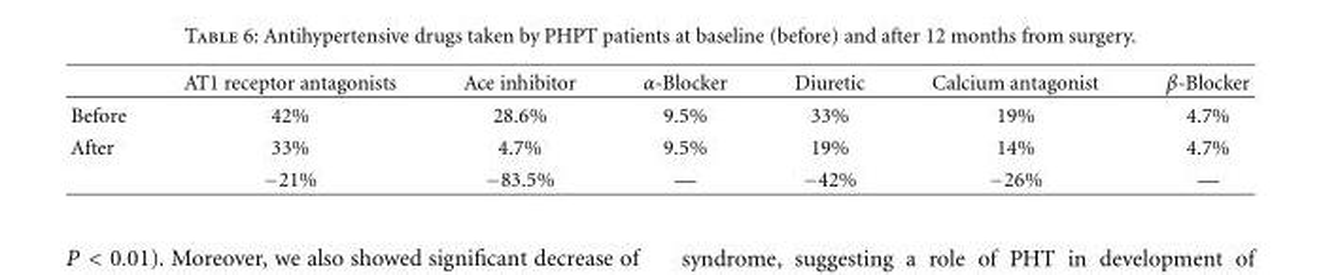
<table><thead><tr><td></td><td>AT1 receptor antagonists</td><td>Ace inhibitor</td><td>α-Blocker</td><td>Diuretic</td><td>Calcium antagonist</td><td>β-Blocker</td></tr></thead><tbody><tr><td>Before</td><td>42%</td><td>28.6%</td><td>9.5%</td><td>33%</td><td>19%</td><td>4.7%</td></tr><tr><td rowspan="2">After</td><td>33%</td><td>4.7%</td><td>9.5%</td><td>19%</td><td>14%</td><td>4.7%</td></tr><tr><td>−21%</td><td>−83.5%</td><td>—</td><td>−42%</td><td>−26%</td><td>—</td></tr></tbody></table>